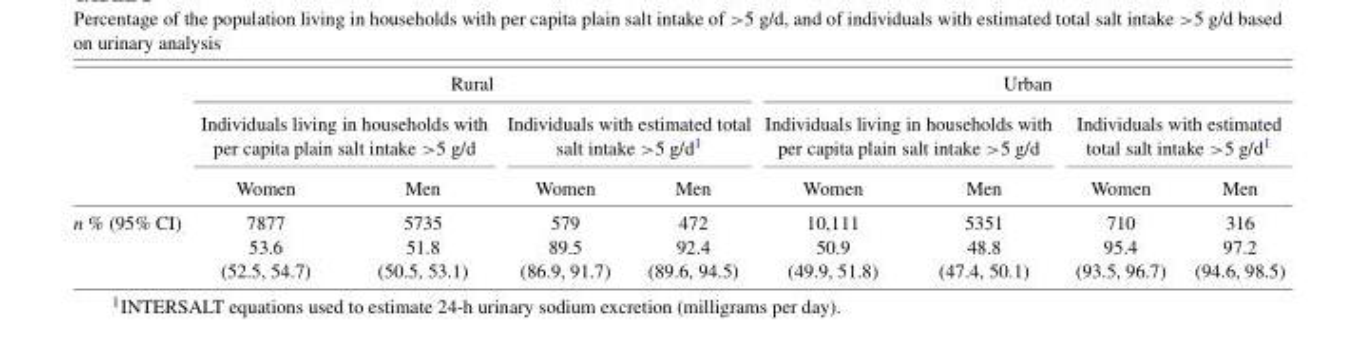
<table><thead><tr><td rowspan="3"></td><td colspan="4">Rural</td><td colspan="4">Urban</td></tr><tr><td colspan="2">Individuals living in households with per capita plain salt intake &gt;5 g/d</td><td colspan="2">Individuals with estimated total salt intake &gt;5 g/d<sup>1</sup></td><td colspan="2">Individuals living in households with per capita plain salt intake &gt;5 g/d</td><td colspan="2">Individuals with estimated total salt intake &gt;5 g/d<sup>1</sup></td></tr><tr><td>Women</td><td>Men</td><td>Women</td><td>Men</td><td>Women</td><td>Men</td><td>Women</td><td>Men</td></tr></thead><tbody><tr><td rowspan="2">n % (95% CI)</td><td>7877</td><td>5735</td><td>579</td><td>472</td><td>10,111</td><td>5351</td><td>710</td><td>316</td></tr><tr><td>53.6 (52.5, 54.7)</td><td>51.8 (50.5, 53.1)</td><td>89.5 (86.9, 91.7)</td><td>92.4 (89.6, 94.5)</td><td>50.9 (49.9, 51.8)</td><td>48.8 (47.4, 50.1)</td><td>95.4 (93.5, 96.7)</td><td>97.2 (94.6, 98.5)</td></tr></tbody></table>